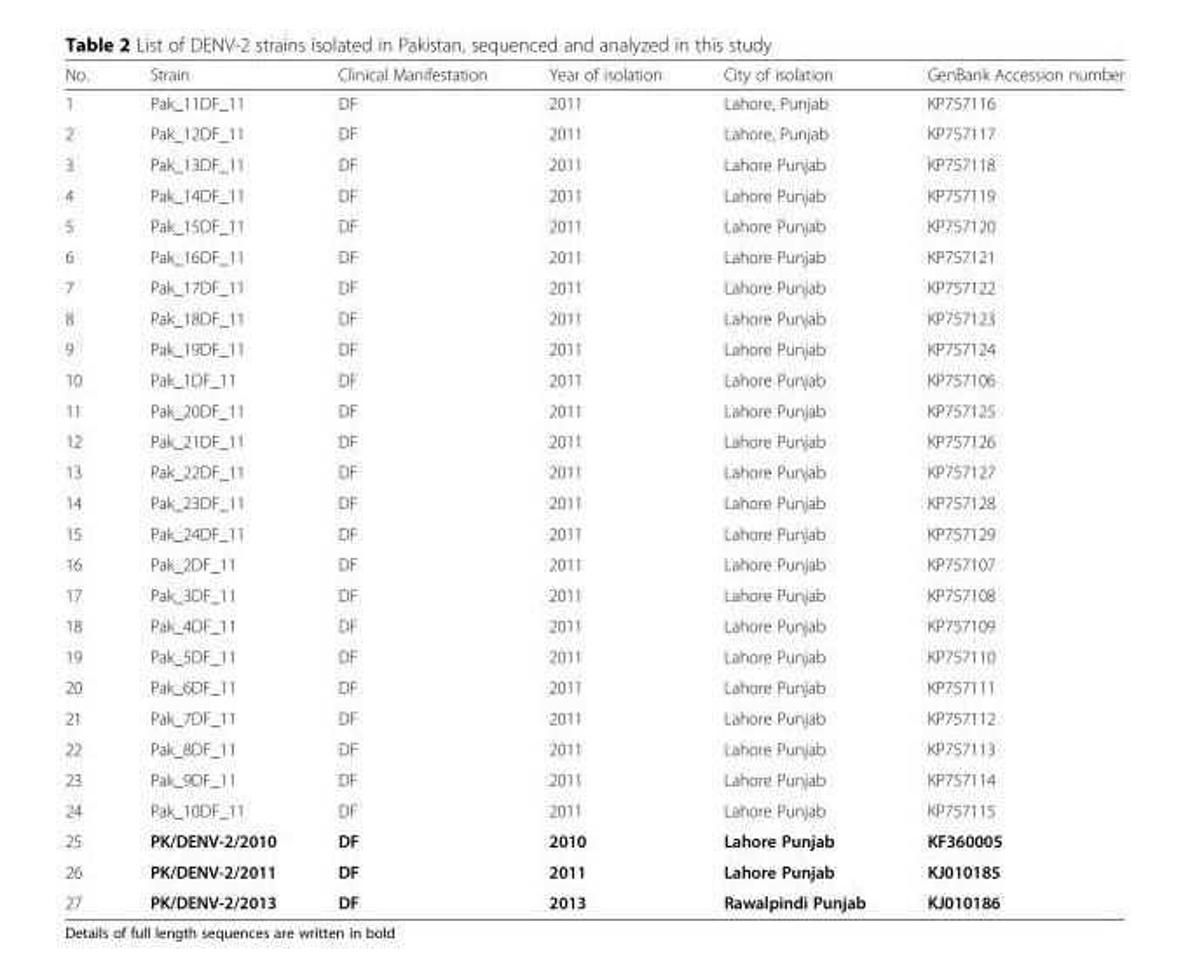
<table><thead><tr><td>No.</td><td>Strain</td><td>Clinical Manifestation</td><td>Year of isolation</td><td>City of isolation</td><td>GenBank Accession number</td></tr></thead><tbody><tr><td>1</td><td>Pak_11DF_11</td><td>DF</td><td>2011</td><td>Lahore, Punjab</td><td>KP757116</td></tr><tr><td>2</td><td>Pak_12DF_11</td><td>DF</td><td>2011</td><td>Lahore, Punjab</td><td>KP757117</td></tr><tr><td>3</td><td>Pak_13DF_11</td><td>DF</td><td>2011</td><td>Lahore Punjab</td><td>KP757118</td></tr><tr><td>4</td><td>Pak_14DF_11</td><td>DF</td><td>2011</td><td>Lahore Punjab</td><td>KP757119</td></tr><tr><td>5</td><td>Pak_15DF_11</td><td>DF</td><td>2011</td><td>Lahore Punjab</td><td>KP757120</td></tr><tr><td>6</td><td>Pak_16DF_11</td><td>DF</td><td>2011</td><td>Lahore Punjab</td><td>KP757121</td></tr><tr><td>7</td><td>Pak_17DF_11</td><td>DF</td><td>2011</td><td>Lahore Punjab</td><td>KP757122</td></tr><tr><td>8</td><td>Pak_18DF_11</td><td>DF</td><td>2011</td><td>Lahore Punjab</td><td>KP757123</td></tr><tr><td>9</td><td>Pak_19DF_11</td><td>DF</td><td>2011</td><td>Lahore Punjab</td><td>KP757124</td></tr><tr><td>10</td><td>Pak_1DF_11</td><td>DF</td><td>2011</td><td>Lahore Punjab</td><td>KP757106</td></tr><tr><td>11</td><td>Pak_20DF_11</td><td>DF</td><td>2011</td><td>Lahore Punjab</td><td>KP757125</td></tr><tr><td>12</td><td>Pak_21DF_11</td><td>DF</td><td>2011</td><td>Lahore Punjab</td><td>KP757126</td></tr><tr><td>13</td><td>Pak_22DF_11</td><td>DF</td><td>2011</td><td>Lahore Punjab</td><td>KP757127</td></tr><tr><td>14</td><td>Pak_23DF_11</td><td>DF</td><td>2011</td><td>Lahore Punjab</td><td>KP757128</td></tr><tr><td>15</td><td>Pak_24DF_11</td><td>DF</td><td>2011</td><td>Lahore Punjab</td><td>KP757129</td></tr><tr><td>16</td><td>Pak_2DF_11</td><td>DF</td><td>2011</td><td>Lahore Punjab</td><td>KP757107</td></tr><tr><td>17</td><td>Pak_3DF_11</td><td>DF</td><td>2011</td><td>Lahore Punjab</td><td>KP757108</td></tr><tr><td>18</td><td>Pak_4DF_11</td><td>DF</td><td>2011</td><td>Lahore Punjab</td><td>KP757109</td></tr><tr><td>19</td><td>Pak_5DF_11</td><td>DF</td><td>2011</td><td>Lahore Punjab</td><td>KP757110</td></tr><tr><td>20</td><td>Pak_6DF_11</td><td>DF</td><td>2011</td><td>Lahore Punjab</td><td>KP757111</td></tr><tr><td>21</td><td>Pak_7DF_11</td><td>DF</td><td>2011</td><td>Lahore Punjab</td><td>KP757112</td></tr><tr><td>22</td><td>Pak_8DF_11</td><td>DF</td><td>2011</td><td>Lahore Punjab</td><td>KP757113</td></tr><tr><td>23</td><td>Pak_9DF_11</td><td>DF</td><td>2011</td><td>Lahore Punjab</td><td>KP757114</td></tr><tr><td>24</td><td>Pak_10DF_11</td><td>DF</td><td>2011</td><td>Lahore Punjab</td><td>KP757115</td></tr><tr><td>25</td><td>PK/DENV-2/2010</td><td>DF</td><td>2010</td><td>Lahore Punjab</td><td>KF360005</td></tr><tr><td>26</td><td>PK/DENV-2/2011</td><td>DF</td><td>2011</td><td>Lahore Punjab</td><td>KJ010185</td></tr><tr><td>27</td><td>PK/DENV-2/2013</td><td>DF</td><td>2013</td><td>Rawalpindi Punjab</td><td>KJ010186</td></tr></tbody></table>